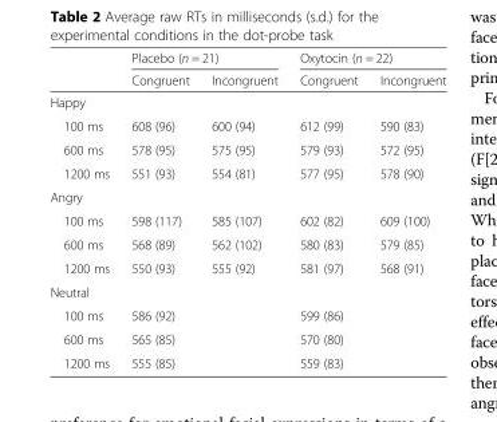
<table><thead><tr><td rowspan="2"></td><td colspan="2">Placebo (n = 21)</td><td colspan="2">Oxytocin (n = 22)</td></tr><tr><td>Congruent</td><td>Incongruent</td><td>Congruent</td><td>Incongruent</td></tr></thead><tbody><tr><td colspan="5">Happy</td></tr><tr><td>100 ms</td><td>608 (96)</td><td>600 (94)</td><td>612 (99)</td><td>590 (83)</td></tr><tr><td>600 ms</td><td>578 (95)</td><td>575 (95)</td><td>579 (93)</td><td>572 (95)</td></tr><tr><td>1200 ms</td><td>551 (93)</td><td>554 (81)</td><td>577 (95)</td><td>578 (90)</td></tr><tr><td colspan="5">Angry</td></tr><tr><td>100 ms</td><td>598 (117)</td><td>585 (107)</td><td>602 (82)</td><td>609 (100)</td></tr><tr><td>600 ms</td><td>568 (89)</td><td>562 (102)</td><td>580 (83)</td><td>579 (85)</td></tr><tr><td>1200 ms</td><td>550 (93)</td><td>555 (92)</td><td>581 (97)</td><td>568 (91)</td></tr><tr><td colspan="5">Neutral</td></tr><tr><td>100 ms</td><td colspan="2">586 (92)</td><td colspan="2">599 (86)</td></tr><tr><td>600 ms</td><td colspan="2">565 (85)</td><td colspan="2">570 (80)</td></tr><tr><td>1200 ms</td><td colspan="2">555 (85)</td><td colspan="2">559 (83)</td></tr></tbody></table>